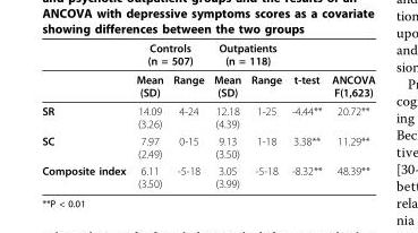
<table><thead><tr><td rowspan="2"></td><td colspan="2">Controls (n = 507)</td><td colspan="2">Outpatients (n = 118)</td><td rowspan="2">t-test</td><td rowspan="2">ANCOVA F(1,623)</td></tr><tr><td>Mean (SD)</td><td>Range</td><td>Mean (SD)</td><td>Range</td></tr></thead><tbody><tr><td>SR</td><td>14.09 (3.26)</td><td>4-24</td><td>12.18 (4.39)</td><td>1-25</td><td>-4.44**</td><td>20.72**</td></tr><tr><td>SC</td><td>7.97 (2.49)</td><td>0-15</td><td>9.13 (3.50)</td><td>1-18</td><td>3.38**</td><td>11.29**</td></tr><tr><td>Composite index</td><td>6.11 (3.50)</td><td>-5-18</td><td>3.05 (3.99)</td><td>-5-18</td><td>-8.32**</td><td>48.39**</td></tr></tbody></table>